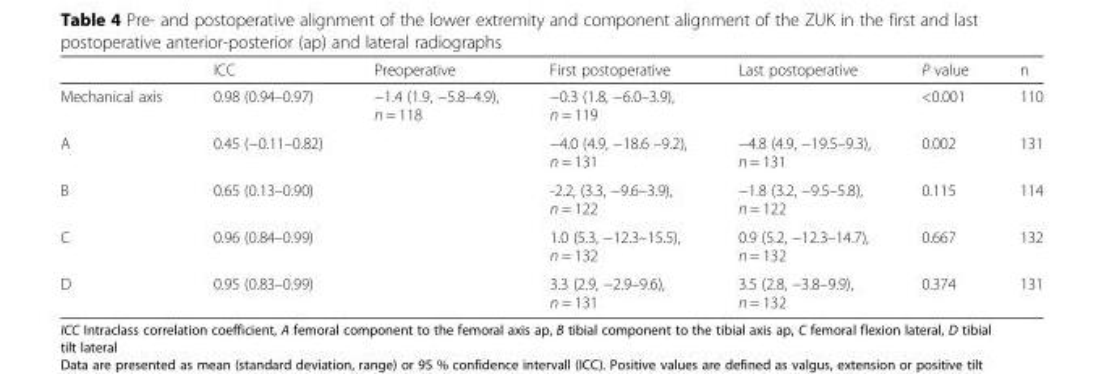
<table><thead><tr><td></td><td>ICC</td><td>Preoperative</td><td>First postoperative</td><td>Last postoperative</td><td>P value</td><td>n</td></tr></thead><tbody><tr><td>Mechanical axis</td><td>0.98 (0.94–0.97)</td><td>−1.4 (1.9, −5.8–4.9), n = 118</td><td>−0.3 (1.8, −6.0–3.9), n = 119</td><td></td><td>&lt;0.001</td><td>110</td></tr><tr><td>A</td><td>0.45 (−0.11–0.82)</td><td></td><td>−4.0 (4.9, −18.6 –9.2), n = 131</td><td>−4.8 (4.9, −19.5–9.3), n = 131</td><td>0.002</td><td>131</td></tr><tr><td>B</td><td>0.65 (0.13–0.90)</td><td></td><td>-2.2, (3.3, −9.6–3.9), n = 122</td><td>−1.8 (3.2, −9.5–5.8), n = 122</td><td>0.115</td><td>114</td></tr><tr><td>C</td><td>0.96 (0.84–0.99)</td><td></td><td>1.0 (5.3, −12.3–15.5), n = 132</td><td>0.9 (5.2, −12.3–14.7), n = 132</td><td>0.667</td><td>132</td></tr><tr><td>D</td><td>0.95 (0.83–0.99)</td><td></td><td>3.3 (2.9, −2.9–9.6), n = 131</td><td>3.5 (2.8, −3.8–9.9), n = 132</td><td>0.374</td><td>131</td></tr></tbody></table>